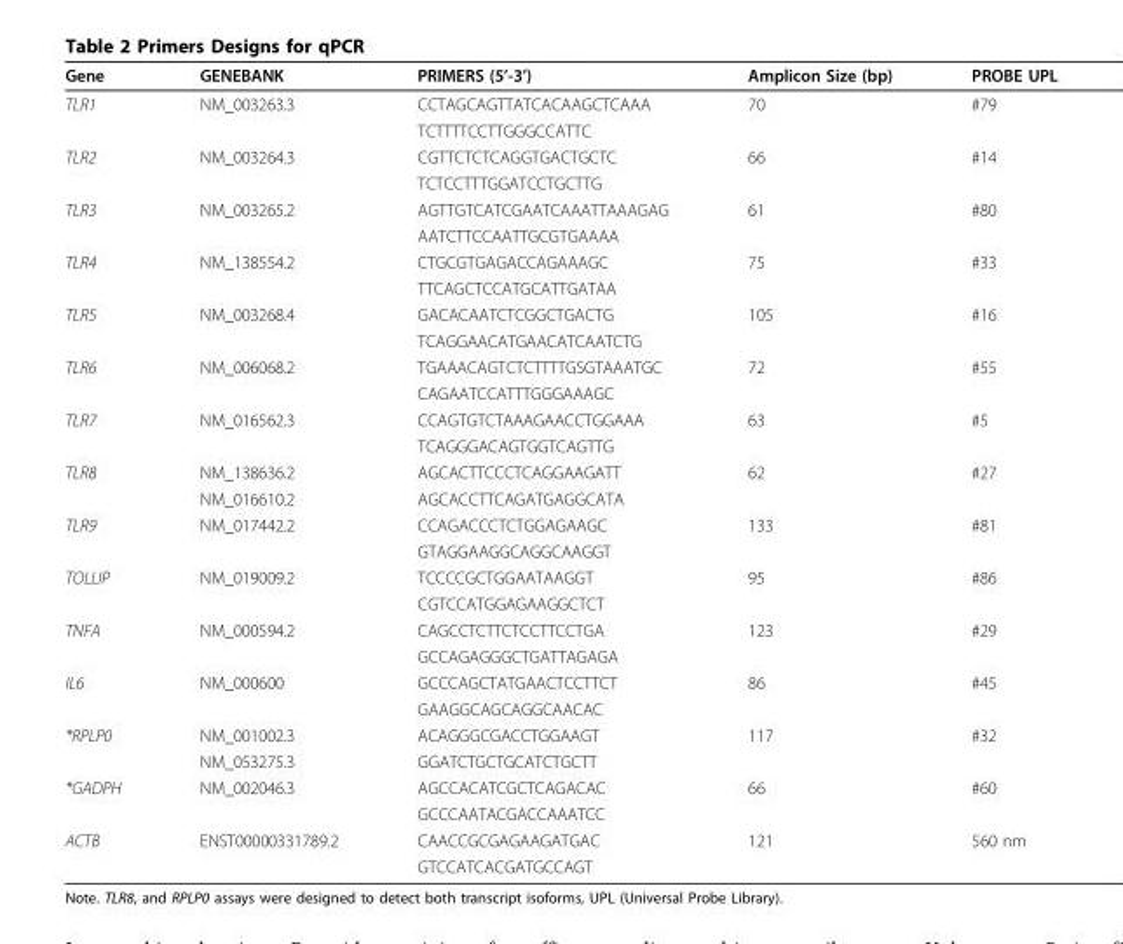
<table><thead><tr><td>Gene</td><td>GENEBANK</td><td>PRIMERS (5’-3’)</td><td>Amplicon Size (bp)</td><td>PROBE UPL</td></tr></thead><tbody><tr><td rowspan="2">TLR1</td><td>NM_003263.3</td><td>CCTAGCAGTTATCACAAGCTCAAA</td><td>70</td><td>#79</td></tr><tr><td></td><td>TCTTTTCCTTGGGCCATTC</td><td></td><td></td></tr><tr><td rowspan="2">TLR2</td><td>NM_003264.3</td><td>CGTTCTCTCAGGTGACTGCTC</td><td>66</td><td>#14</td></tr><tr><td></td><td>TCTCCTTTGGATCCTGCTTG</td><td></td><td></td></tr><tr><td rowspan="2">TLR3</td><td>NM_003265.2</td><td>AGTTGTCATCGAATCAAATTAAAGAG</td><td>61</td><td>#80</td></tr><tr><td></td><td>AATCTTCCAATTGCGTGAAAA</td><td></td><td></td></tr><tr><td rowspan="2">TLR4</td><td>NM_138554.2</td><td>CTGCGTGAGACCAGAAAGC</td><td>75</td><td>#33</td></tr><tr><td></td><td>TTCAGCTCCATGCATTGATAA</td><td></td><td></td></tr><tr><td rowspan="2">TLR5</td><td>NM_003268.4</td><td>GACACAATCTCGGCTGACTG</td><td>105</td><td>#16</td></tr><tr><td></td><td>TCAGGAACATGAACATCAATCTG</td><td></td><td></td></tr><tr><td rowspan="2">TLR6</td><td>NM_006068.2</td><td>TGAAACAGTCTCTTTTGSGTAAATGC</td><td>72</td><td>#55</td></tr><tr><td></td><td>CAGAATCCATTTGGGAAAGC</td><td></td><td></td></tr><tr><td rowspan="2">TLR7</td><td>NM_016562.3</td><td>CCAGTGTCTAAAGAACCTGGAAA</td><td>63</td><td>#5</td></tr><tr><td></td><td>TCAGGGACAGTGGTCAGTTG</td><td></td><td></td></tr><tr><td rowspan="2">TLR8</td><td>NM_138636.2</td><td>AGCACTTCCCTCAGGAAGATT</td><td>62</td><td>#27</td></tr><tr><td>NM_016610.2</td><td>AGCACCTTCAGATGAGGCATA</td><td></td><td></td></tr><tr><td rowspan="2">TLR9</td><td>NM_017442.2</td><td>CCAGACCCTCTGGAGAAGC</td><td>133</td><td>#81</td></tr><tr><td></td><td>GTAGGAAGGCAGGCAAGGT</td><td></td><td></td></tr><tr><td rowspan="2">TOLLIP</td><td>NM_019009.2</td><td>TCCCCGCTGGAATAAGGT</td><td>95</td><td>#86</td></tr><tr><td></td><td>CGTCCATGGAGAAGGCTCT</td><td></td><td></td></tr><tr><td rowspan="2">TNFA</td><td>NM_000594.2</td><td>CAGCCTCTTCTCCTTCCTGA</td><td>123</td><td>#29</td></tr><tr><td></td><td>GCCAGAGGGCTGATTAGAGA</td><td></td><td></td></tr><tr><td rowspan="2">IL6</td><td>NM_000600</td><td>GCCCAGCTATGAACTCCTTCT</td><td>86</td><td>#45</td></tr><tr><td></td><td>GAAGGCAGCAGGCAACAC</td><td></td><td></td></tr><tr><td rowspan="2">*RPLP0</td><td>NM_001002.3</td><td>ACAGGGCGACCTGGAAGT</td><td>117</td><td>#32</td></tr><tr><td>NM_053275.3</td><td>GGATCTGCTGCATCTGCTT</td><td></td><td></td></tr><tr><td rowspan="2">*GADPH</td><td>NM_002046.3</td><td>AGCCACATCGCTCAGACAC</td><td>66</td><td>#60</td></tr><tr><td></td><td>GCCCAATACGACCAAATCC</td><td></td><td></td></tr><tr><td rowspan="2">ACTB</td><td>ENST00000331789.2</td><td>CAACCGCGAGAAGATGAC</td><td>121</td><td>560 nm</td></tr><tr><td></td><td>GTCCATCACGATGCCAGT</td><td></td><td></td></tr></tbody></table>